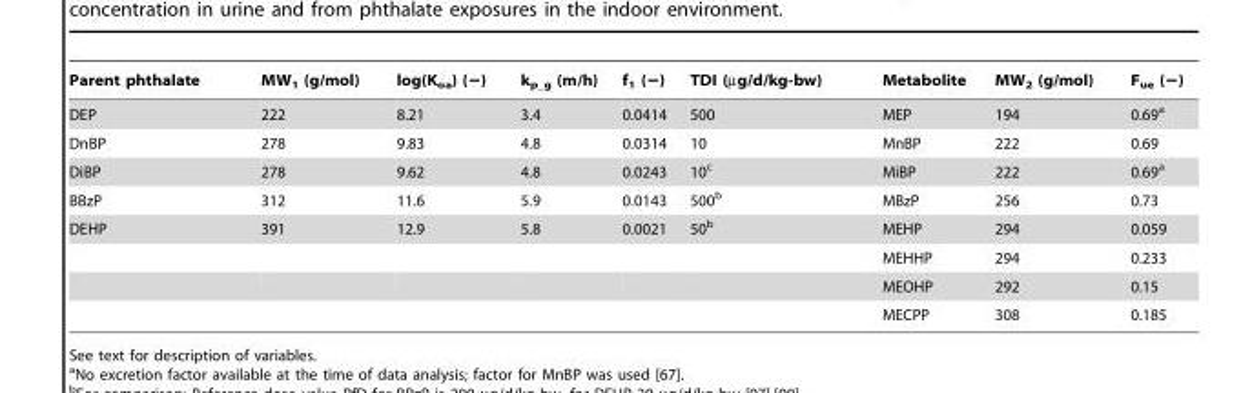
<table><thead><tr><td>Parent phthalate</td><td>MW<sub>1</sub> (g/mol)</td><td>log(K<sub>oa</sub>) (−)</td><td>k<sub>p_g</sub> (m/h)</td><td>f<sub>1</sub> (−)</td><td>TDI (µg/d/kg-bw)</td><td>Metabolite</td><td>MW<sub>2</sub> (g/mol)</td><td>F<sub>ue</sub> (−)</td></tr></thead><tbody><tr><td>DEP</td><td>222</td><td>8.21</td><td>3.4</td><td>0.0414</td><td>500</td><td>MEP</td><td>194</td><td>0.69<sup>a</sup></td></tr><tr><td>DnBP</td><td>278</td><td>9.83</td><td>4.8</td><td>0.0314</td><td>10</td><td>MnBP</td><td>222</td><td>0.69</td></tr><tr><td>DiBP</td><td>278</td><td>9.62</td><td>4.8</td><td>0.0243</td><td>10<sup>c</sup></td><td>MiBP</td><td>222</td><td>0.69<sup>a</sup></td></tr><tr><td>BBzP</td><td>312</td><td>11.6</td><td>5.9</td><td>0.0143</td><td>500<sup>b</sup></td><td>MBzP</td><td>256</td><td>0.73</td></tr><tr><td rowspan="4">DEHP</td><td>391</td><td>12.9</td><td>5.8</td><td>0.0021</td><td>50<sup>b</sup></td><td>MEHP</td><td>294</td><td>0.059</td></tr><tr><td></td><td></td><td></td><td></td><td></td><td>MEHHP</td><td>294</td><td>0.233</td></tr><tr><td></td><td></td><td></td><td></td><td></td><td>MEOHP</td><td>292</td><td>0.15</td></tr><tr><td></td><td></td><td></td><td></td><td></td><td>MECPP</td><td>308</td><td>0.185</td></tr></tbody></table>